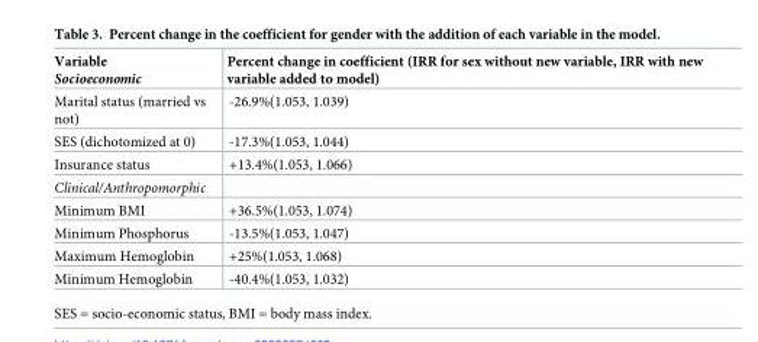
<table><thead><tr><td>Variable Socioeconomic</td><td>Percent change in coefficient (IRR for sex without new variable, IRR with new variable added to model)</td></tr></thead><tbody><tr><td>Marital status (married vs not)</td><td>-26.9%(1.053, 1.039)</td></tr><tr><td>SES (dichotomized at 0)</td><td>-17.3%(1.053, 1.044)</td></tr><tr><td>Insurance status</td><td>+13.4%(1.053, 1.066)</td></tr><tr><td colspan="2">Clinical/Anthropomorphic</td></tr><tr><td>Minimum BMI</td><td>+36.5%(1.053, 1.074)</td></tr><tr><td>Minimum Phosphorus</td><td>-13.5%(1.053, 1.047)</td></tr><tr><td>Maximum Hemoglobin</td><td>+25%(1.053, 1.068)</td></tr><tr><td>Minimum Hemoglobin</td><td>-40.4%(1.053, 1.032)</td></tr></tbody></table>